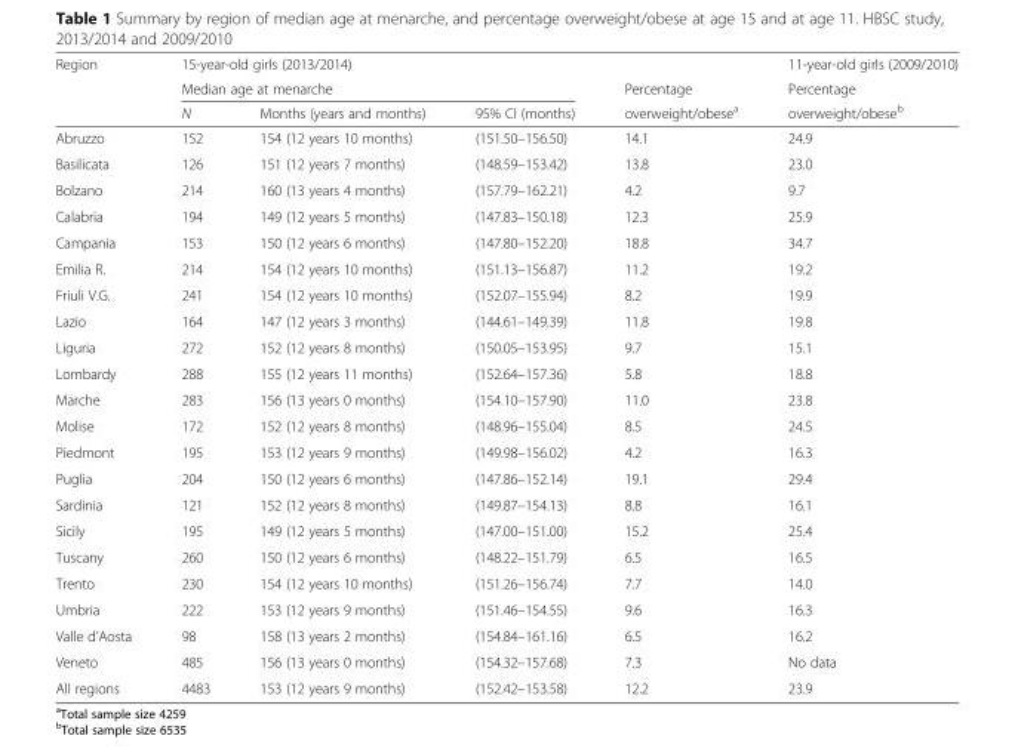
<table><thead><tr><td rowspan="3">Region</td><td rowspan="2" colspan="3">15-year-old girls (2013/2014) Median age at menarche</td><td rowspan="3">Percentage overweight/obese<sup>a</sup></td><td rowspan="3">11-year-old girls (2009/2010) Percentage overweight/obese<sup>b</sup></td></tr><tr></tr><tr><td>N</td><td>Months (years and months)</td><td>95% CI (months)</td></tr></thead><tbody><tr><td>Abruzzo</td><td>152</td><td>154 (12 years 10 months)</td><td>(151.50–156.50)</td><td>14.1</td><td>24.9</td></tr><tr><td>Basilicata</td><td>126</td><td>151 (12 years 7 months)</td><td>(148.59–153.42)</td><td>13.8</td><td>23.0</td></tr><tr><td>Bolzano</td><td>214</td><td>160 (13 years 4 months)</td><td>(157.79–162.21)</td><td>4.2</td><td>9.7</td></tr><tr><td>Calabria</td><td>194</td><td>149 (12 years 5 months)</td><td>(147.83–150.18)</td><td>12.3</td><td>25.9</td></tr><tr><td>Campania</td><td>153</td><td>150 (12 years 6 months)</td><td>(147.80–152.20)</td><td>18.8</td><td>34.7</td></tr><tr><td>Emilia R.</td><td>214</td><td>154 (12 years 10 months)</td><td>(151.13–156.87)</td><td>11.2</td><td>19.2</td></tr><tr><td>Friuli V.G.</td><td>241</td><td>154 (12 years 10 months)</td><td>(152.07–155.94)</td><td>8.2</td><td>19.9</td></tr><tr><td>Lazio</td><td>164</td><td>147 (12 years 3 months)</td><td>(144.61–149.39)</td><td>11.8</td><td>19.8</td></tr><tr><td>Liguria</td><td>272</td><td>152 (12 years 8 months)</td><td>(150.05–153.95)</td><td>9.7</td><td>15.1</td></tr><tr><td>Lombardy</td><td>288</td><td>155 (12 years 11 months)</td><td>(152.64–157.36)</td><td>5.8</td><td>18.8</td></tr><tr><td>Marche</td><td>283</td><td>156 (13 years 0 months)</td><td>(154.10–157.90)</td><td>11.0</td><td>23.8</td></tr><tr><td>Molise</td><td>172</td><td>152 (12 years 8 months)</td><td>(148.96–155.04)</td><td>8.5</td><td>24.5</td></tr><tr><td>Piedmont</td><td>195</td><td>153 (12 years 9 months)</td><td>(149.98–156.02)</td><td>4.2</td><td>16.3</td></tr><tr><td>Puglia</td><td>204</td><td>150 (12 years 6 months)</td><td>(147.86–152.14)</td><td>19.1</td><td>29.4</td></tr><tr><td>Sardinia</td><td>121</td><td>152 (12 years 8 months)</td><td>(149.87–154.13)</td><td>8.8</td><td>16.1</td></tr><tr><td>Sicily</td><td>195</td><td>149 (12 years 5 months)</td><td>(147.00–151.00)</td><td>15.2</td><td>25.4</td></tr><tr><td>Tuscany</td><td>260</td><td>150 (12 years 6 months)</td><td>(148.22–151.79)</td><td>6.5</td><td>16.5</td></tr><tr><td>Trento</td><td>230</td><td>154 (12 years 10 months)</td><td>(151.26–156.74)</td><td>7.7</td><td>14.0</td></tr><tr><td>Umbria</td><td>222</td><td>153 (12 years 9 months)</td><td>(151.46–154.55)</td><td>9.6</td><td>16.3</td></tr><tr><td>Valle d’Aosta</td><td>98</td><td>158 (13 years 2 months)</td><td>(154.84–161.16)</td><td>6.5</td><td>16.2</td></tr><tr><td>Veneto</td><td>485</td><td>156 (13 years 0 months)</td><td>(154.32–157.68)</td><td>7.3</td><td>No data</td></tr><tr><td>All regions</td><td>4483</td><td>153 (12 years 9 months)</td><td>(152.42–153.58)</td><td>12.2</td><td>23.9</td></tr></tbody></table>